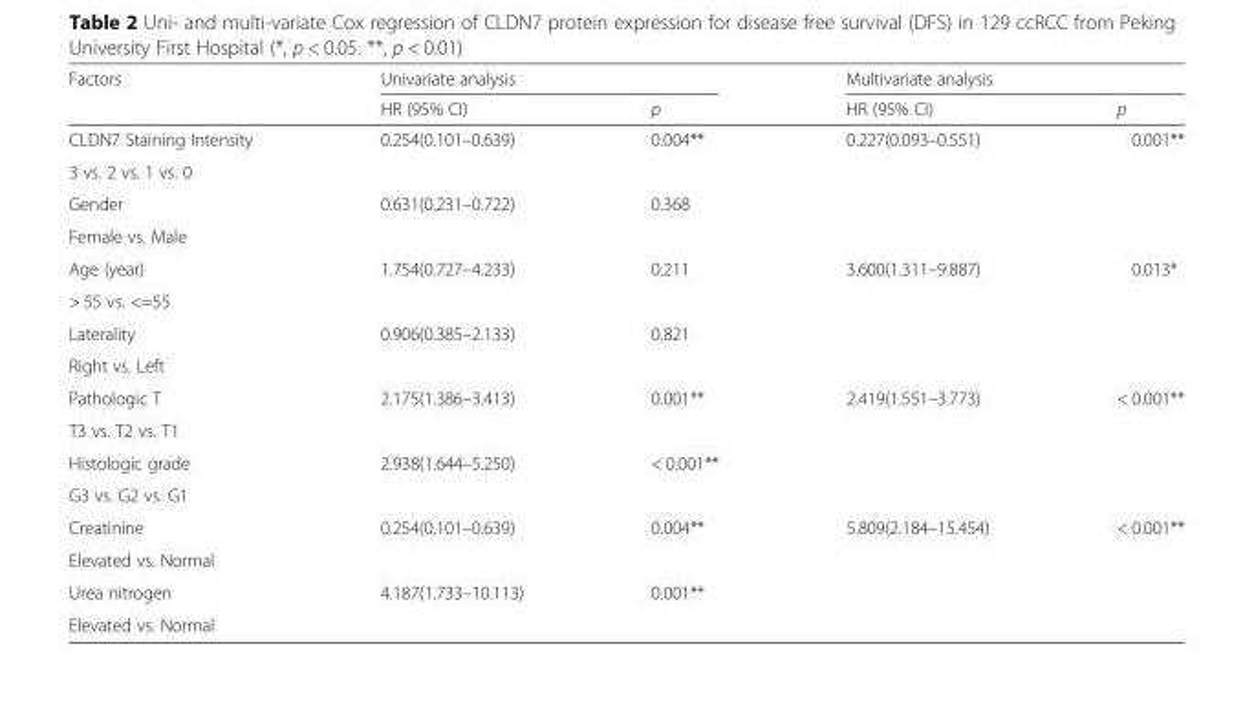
<table><thead><tr><td rowspan="2">Factors</td><td colspan="2">Univariate analysis</td><td colspan="2">Multivariate analysis</td></tr><tr><td>HR (95% CI)</td><td>p</td><td>HR (95% CI)</td><td>p</td></tr></thead><tbody><tr><td>CLDN7 Staining Intensity</td><td rowspan="2">0.254(0.101–0.639)</td><td rowspan="2">0.004**</td><td rowspan="2">0.227(0.093–0.551)</td><td rowspan="2">0.001**</td></tr><tr><td>3 vs. 2 vs. 1 vs. 0</td></tr><tr><td>Gender</td><td rowspan="2">0.631(0.231–0.722)</td><td rowspan="2">0.368</td><td rowspan="2"></td><td rowspan="2"></td></tr><tr><td>Female vs. Male</td></tr><tr><td>Age (year)</td><td rowspan="2">1.754(0.727–4.233)</td><td rowspan="2">0.211</td><td rowspan="2">3.600(1.311–9.887)</td><td rowspan="2">0.013*</td></tr><tr><td>&gt; 55 vs. &lt;=55</td></tr><tr><td>Laterality</td><td rowspan="2">0.906(0.385–2.133)</td><td rowspan="2">0.821</td><td rowspan="2"></td><td rowspan="2"></td></tr><tr><td>Right vs. Left</td></tr><tr><td>Pathologic T</td><td rowspan="2">2.175(1.386–3.413)</td><td rowspan="2">0.001**</td><td rowspan="2">2.419(1.551–3.773)</td><td rowspan="2">&lt; 0.001**</td></tr><tr><td>T3 vs. T2 vs. T1</td></tr><tr><td>Histologic grade</td><td rowspan="2">2.938(1.644–5.250)</td><td rowspan="2">&lt; 0.001**</td><td rowspan="2"></td><td rowspan="2"></td></tr><tr><td>G3 vs. G2 vs. G1</td></tr><tr><td>Creatinine</td><td rowspan="2">0.254(0.101–0.639)</td><td rowspan="2">0.004**</td><td rowspan="2">5.809(2.184–15.454)</td><td rowspan="2">&lt; 0.001**</td></tr><tr><td>Elevated vs. Normal</td></tr><tr><td>Urea nitrogen</td><td rowspan="2">4.187(1.733–10.113)</td><td rowspan="2">0.001**</td><td rowspan="2"></td><td rowspan="2"></td></tr><tr><td>Elevated vs. Normal</td></tr></tbody></table>